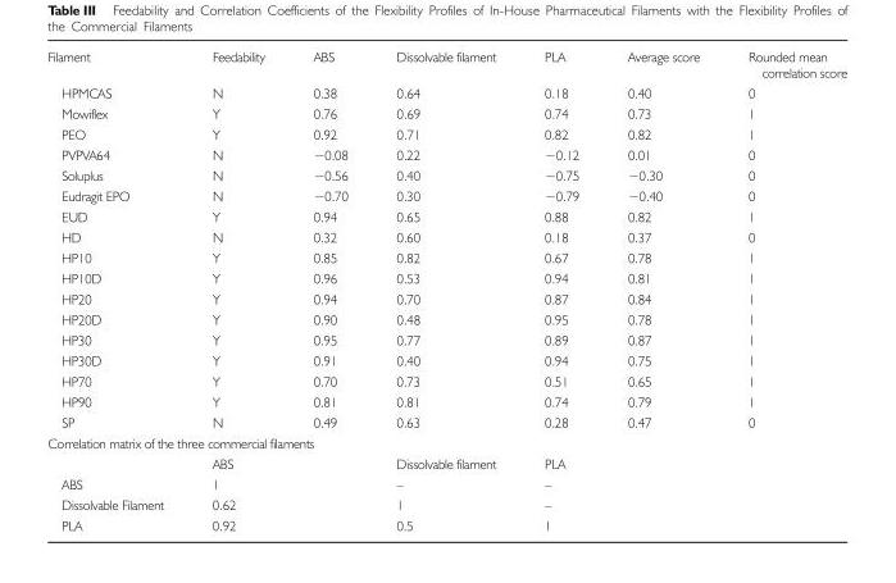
<table><tbody><tr><td>Filament</td><td>Feedability</td><td>ABS</td><td>Dissolvable filament</td><td>PLA</td><td>Average score</td><td>Rounded mean correlation score</td></tr><tr><td>HPMCAS</td><td>N</td><td>0.38</td><td>0.64</td><td>0.18</td><td>0.40</td><td>0</td></tr><tr><td>Mowiflex</td><td>Y</td><td>0.76</td><td>0.69</td><td>0.74</td><td>0.73</td><td>1</td></tr><tr><td>PEO</td><td>Y</td><td>0.92</td><td>0.71</td><td>0.82</td><td>0.82</td><td>1</td></tr><tr><td>PVPVA64</td><td>N</td><td>−0.08</td><td>0.22</td><td>−0.12</td><td>0.01</td><td>0</td></tr><tr><td>Soluplus</td><td>N</td><td>−0.56</td><td>0.40</td><td>−0.75</td><td>−0.30</td><td>0</td></tr><tr><td>Eudragit EPO</td><td>N</td><td>−0.70</td><td>0.30</td><td>−0.79</td><td>−0.40</td><td>0</td></tr><tr><td>EUD</td><td>Y</td><td>0.94</td><td>0.65</td><td>0.88</td><td>0.82</td><td>1</td></tr><tr><td>HD</td><td>N</td><td>0.32</td><td>0.60</td><td>0.18</td><td>0.37</td><td>0</td></tr><tr><td>HP10</td><td>Y</td><td>0.85</td><td>0.82</td><td>0.67</td><td>0.78</td><td>1</td></tr><tr><td>HP10D</td><td>Y</td><td>0.96</td><td>0.53</td><td>0.94</td><td>0.81</td><td>1</td></tr><tr><td>HP20</td><td>Y</td><td>0.94</td><td>0.70</td><td>0.87</td><td>0.84</td><td>1</td></tr><tr><td>HP20D</td><td>Y</td><td>0.90</td><td>0.48</td><td>0.95</td><td>0.78</td><td>1</td></tr><tr><td>HP30</td><td>Y</td><td>0.95</td><td>0.77</td><td>0.89</td><td>0.87</td><td>1</td></tr><tr><td>HP30D</td><td>Y</td><td>0.91</td><td>0.40</td><td>0.94</td><td>0.75</td><td>1</td></tr><tr><td>HP70</td><td>Y</td><td>0.70</td><td>0.73</td><td>0.51</td><td>0.65</td><td>1</td></tr><tr><td>HP90</td><td>Y</td><td>0.81</td><td>0.81</td><td>0.74</td><td>0.79</td><td>1</td></tr><tr><td>SP</td><td>N</td><td>0.49</td><td>0.63</td><td>0.28</td><td>0.47</td><td>0</td></tr><tr><td colspan="7">Correlation matrix of the three commercial filaments</td></tr><tr><td></td><td colspan="2">ABS</td><td>Dissolvable filament</td><td colspan="3">PLA</td></tr><tr><td>ABS</td><td colspan="2">1</td><td>–</td><td colspan="3">–</td></tr><tr><td>Dissolvable Filament</td><td colspan="2">0.62</td><td>1</td><td colspan="3">–</td></tr><tr><td>PLA</td><td colspan="2">0.92</td><td>0.5</td><td colspan="3">1</td></tr></tbody></table>